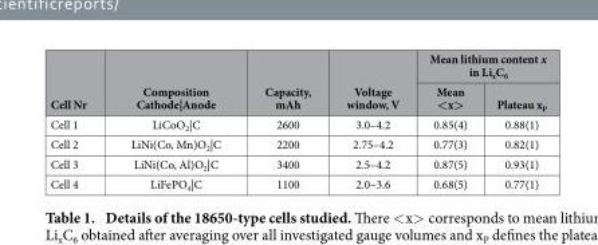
<table><thead><tr><td rowspan="2">Cell Nr</td><td rowspan="2">Composition Cathode|Anode</td><td rowspan="2">Capacity, mAh</td><td rowspan="2">Voltage window, V</td><td colspan="2">Mean lithium content x in Li<sub>x</sub>C<sub>6</sub></td></tr><tr><td>Mean &lt;x&gt;</td><td>Plateau x<sub>P</sub></td></tr></thead><tbody><tr><td>Cell 1</td><td>LiCoO<sub>2</sub>|C</td><td>2600</td><td>3.0–4.2</td><td>0.85(4)</td><td>0.88(1)</td></tr><tr><td>Cell 2</td><td>LiNi(Co, Mn)O<sub>2</sub>|C</td><td>2200</td><td>2.75–4.2</td><td>0.77(3)</td><td>0.82(1)</td></tr><tr><td>Cell 3</td><td>LiNi(Co, Al)O<sub>2</sub>|C</td><td>3400</td><td>2.5–4.2</td><td>0.87(5)</td><td>0.93(1)</td></tr><tr><td>Cell 4</td><td>LiFePO<sub>4</sub>|C</td><td>1100</td><td>2.0–3.6</td><td>0.68(5)</td><td>0.77(1)</td></tr></tbody></table>